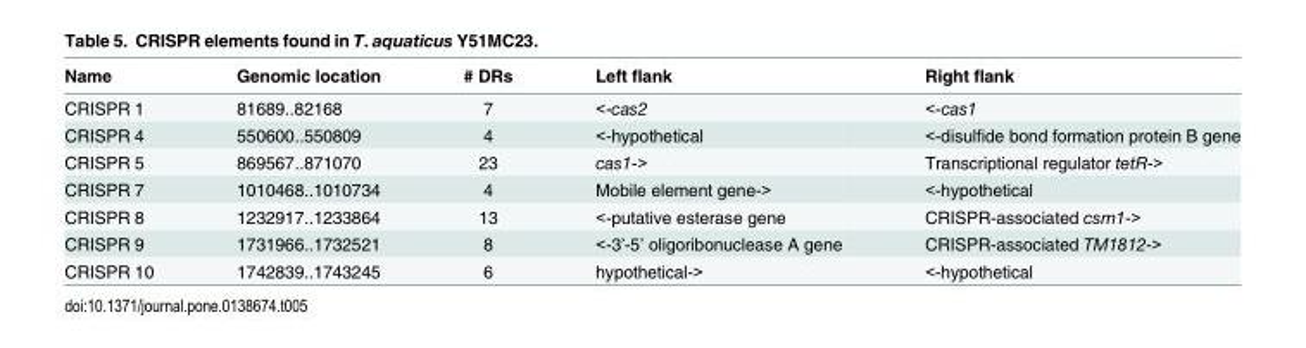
<table><thead><tr><td>Name</td><td>Genomic location</td><td># DRs</td><td>Left flank</td><td>Right flank</td></tr></thead><tbody><tr><td>CRISPR 1</td><td>81689..82168</td><td>7</td><td>&lt;-cas2</td><td>&lt;-cas1</td></tr><tr><td>CRISPR 4</td><td>550600..550809</td><td>4</td><td>&lt;-hypothetical</td><td>&lt;-disulfide bond formation protein B gene</td></tr><tr><td>CRISPR 5</td><td>869567..871070</td><td>23</td><td>cas1-&gt;</td><td>Transcriptional regulator tetR-&gt;</td></tr><tr><td>CRISPR 7</td><td>1010468..1010734</td><td>4</td><td>Mobile element gene-&gt;</td><td>&lt;-hypothetical</td></tr><tr><td>CRISPR 8</td><td>1232917..1233864</td><td>13</td><td>&lt;-putative esterase gene</td><td>CRISPR-associated csm1-&gt;</td></tr><tr><td>CRISPR 9</td><td>1731966..1732521</td><td>8</td><td>&lt;-3’-5’ oligoribonuclease A gene</td><td>CRISPR-associated TM1812-&gt;</td></tr><tr><td>CRISPR 10</td><td>1742839..1743245</td><td>6</td><td>hypothetical-&gt;</td><td>&lt;-hypothetical</td></tr></tbody></table>